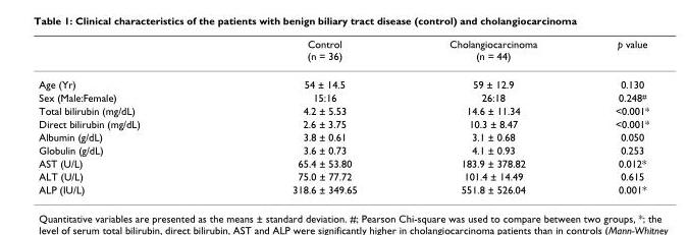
<table><thead><tr><td></td><td>Control (n = 36)</td><td>Cholangiocarcinoma (n = 44)</td><td>p value</td></tr></thead><tbody><tr><td>Age (Yr)</td><td>54 ± 14.5</td><td>59 ± 12.9</td><td>0.130</td></tr><tr><td>Sex (Male:Female)</td><td>15:16</td><td>26:18</td><td>0.248<sup>#</sup></td></tr><tr><td>Total bilirubin (mg/dL)</td><td>4.2 ± 5.53</td><td>14.6 ± 11.34</td><td>&lt;0.001*</td></tr><tr><td>Direct bilirubin (mg/dL)</td><td>2.6 ± 3.75</td><td>10.3 ± 8.47</td><td>&lt;0.001*</td></tr><tr><td>Albumin (g/dL)</td><td>3.8 ± 0.61</td><td>3.1 ± 0.68</td><td>0.050</td></tr><tr><td>Globulin (g/dL)</td><td>3.6 ± 0.73</td><td>4.1 ± 0.93</td><td>0.253</td></tr><tr><td>AST (U/L)</td><td>65.4 ± 53.80</td><td>183.9 ± 378.82</td><td>0.012*</td></tr><tr><td>ALT (U/L)</td><td>75.0 ± 77.72</td><td>101.4 ± 14.49</td><td>0.615</td></tr><tr><td>ALP (IU/L)</td><td>318.6 ± 349.65</td><td>551.8 ± 526.04</td><td>0.001*</td></tr></tbody></table>